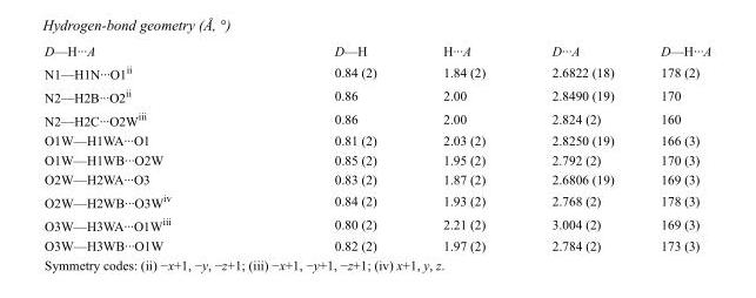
<table><tbody><tr><td>D—H···A</td><td>D—H</td><td>H···A</td><td>D···A</td><td>D—H···A</td></tr><tr><td>N1—H1N···O1<sup>ii</sup></td><td>0.84 (2)</td><td>1.84 (2)</td><td>2.6822 (18)</td><td>178 (2)</td></tr><tr><td>N2—H2B···O2<sup>ii</sup></td><td>0.86</td><td>2.00</td><td>2.8490 (19)</td><td>170</td></tr><tr><td>N2—H2C···O2W<sup>iii</sup></td><td>0.86</td><td>2.00</td><td>2.824 (2)</td><td>160</td></tr><tr><td>O1W—H1WA···O1</td><td>0.81 (2)</td><td>2.03 (2)</td><td>2.8250 (19)</td><td>166 (3)</td></tr><tr><td>O1W—H1WB···O2W</td><td>0.85 (2)</td><td>1.95 (2)</td><td>2.792 (2)</td><td>170 (3)</td></tr><tr><td>O2W—H2WA···O3</td><td>0.83 (2)</td><td>1.87 (2)</td><td>2.6806 (19)</td><td>169 (3)</td></tr><tr><td>O2W—H2WB···O3W<sup>iv</sup></td><td>0.84 (2)</td><td>1.93 (2)</td><td>2.768 (2)</td><td>178 (3)</td></tr><tr><td>O3W—H3WA···O1W<sup>iii</sup></td><td>0.80 (2)</td><td>2.21 (2)</td><td>3.004 (2)</td><td>169 (3)</td></tr><tr><td>O3W—H3WB···O1W</td><td>0.82 (2)</td><td>1.97 (2)</td><td>2.784 (2)</td><td>173 (3)</td></tr></tbody></table>